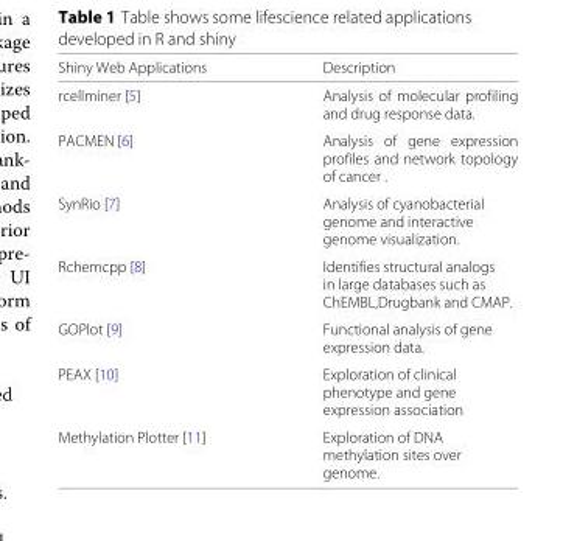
<table><thead><tr><td>Shiny Web Applications</td><td>Description</td></tr></thead><tbody><tr><td>rcellminer [5]</td><td>Analysis of molecular profiling and drug response data.</td></tr><tr><td>PACMEN [6]</td><td>Analysis of gene expression profiles and network topology of cancer .</td></tr><tr><td>SynRio [7]</td><td>Analysis of cyanobacterial genome and interactive genome visualization.</td></tr><tr><td>Rchemcpp [8]</td><td>Identifies structural analogs in large databases such as ChEMBL,Drugbank and CMAP.</td></tr><tr><td>GOPlot [9]</td><td>Functional analysis of gene expression data.</td></tr><tr><td>PEAX [10]</td><td>Exploration of clinical phenotype and gene expression association</td></tr><tr><td>Methylation Plotter [11]</td><td>Exploration of DNA methylation sites over genome.</td></tr></tbody></table>